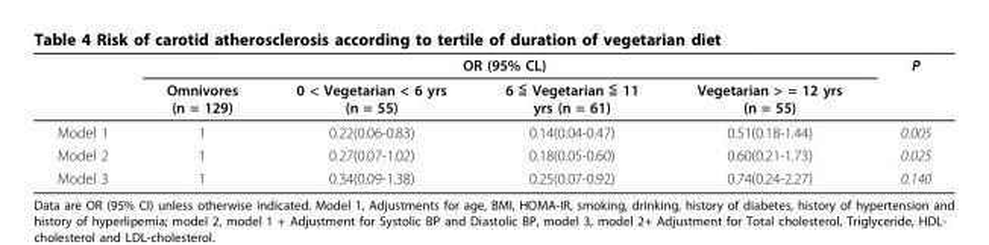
<table><thead><tr><td rowspan="2"></td><td colspan="4">OR (95% CL)</td><td rowspan="2">P</td></tr><tr><td>Omnivores (n = 129)</td><td>0 &lt; Vegetarian &lt; 6 yrs (n = 55)</td><td>6 ≦ Vegetarian ≦ 11 yrs (n = 61)</td><td>Vegetarian &gt; = 12 yrs (n = 55)</td></tr></thead><tbody><tr><td>Model 1</td><td>1</td><td>0.22(0.06-0.83)</td><td>0.14(0.04-0.47)</td><td>0.51(0.18-1.44)</td><td>0.005</td></tr><tr><td>Model 2</td><td>1</td><td>0.27(0.07-1.02)</td><td>0.18(0.05-0.60)</td><td>0.60(0.21-1.73)</td><td>0.025</td></tr><tr><td>Model 3</td><td>1</td><td>0.34(0.09-1.38)</td><td>0.25(0.07-0.92)</td><td>0.74(0.24-2.27)</td><td>0.140</td></tr></tbody></table>